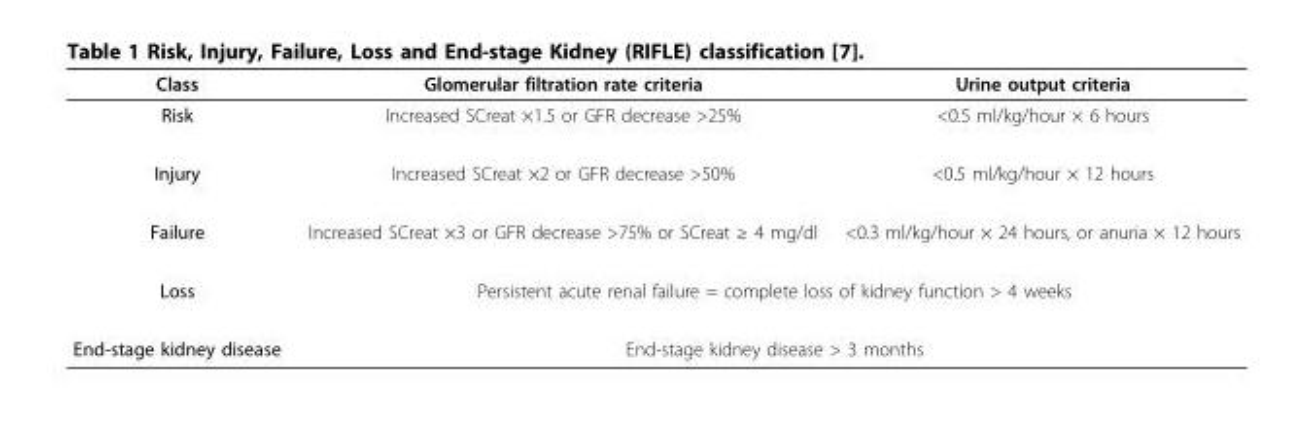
<table><thead><tr><td>Class</td><td>Glomerular filtration rate criteria</td><td>Urine output criteria</td></tr></thead><tbody><tr><td>Risk</td><td>Increased SCreat ×1.5 or GFR decrease &gt;25%</td><td>&lt;0.5 ml/kg/hour × 6 hours</td></tr><tr><td>Injury</td><td>Increased SCreat ×2 or GFR decrease &gt;50%</td><td>&lt;0.5 ml/kg/hour × 12 hours</td></tr><tr><td>Failure</td><td>Increased SCreat ×3 or GFR decrease &gt;75% or SCreat ≥ 4 mg/dl</td><td>&lt;0.3 ml/kg/hour × 24 hours, or anuria × 12 hours</td></tr><tr><td>Loss</td><td colspan="2">Persistent acute renal failure = complete loss of kidney function &gt; 4 weeks</td></tr><tr><td>End-stage kidney disease</td><td colspan="2">End-stage kidney disease &gt; 3 months</td></tr></tbody></table>